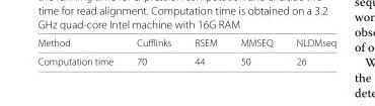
<table><thead><tr><td>Method</td><td>Cufflinks</td><td>RSEM</td><td>MMSEQ</td><td>NLDMseq</td></tr></thead><tbody><tr><td>Computation time</td><td>70</td><td>44</td><td>50</td><td>26</td></tr></tbody></table>